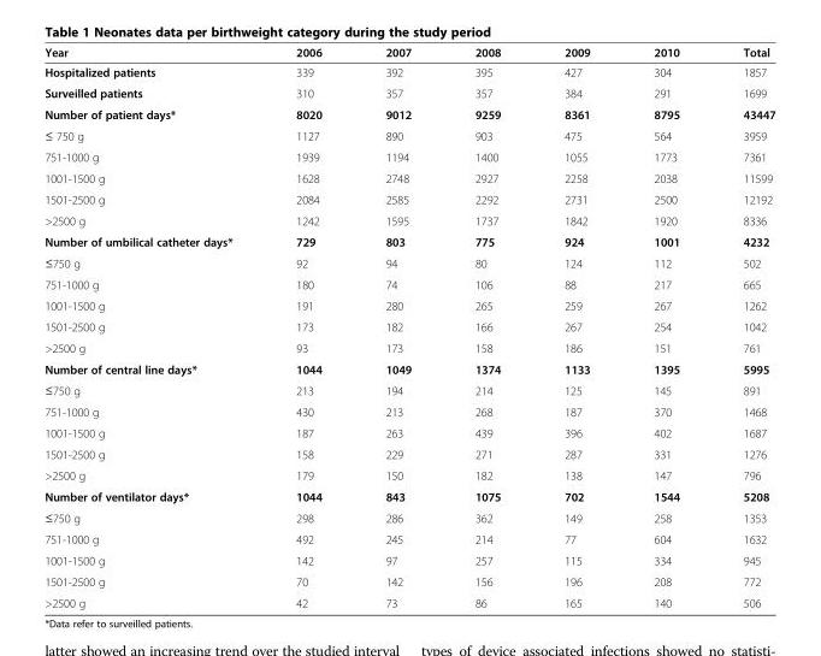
<table><thead><tr><td>Year</td><td>2006</td><td>2007</td><td>2008</td><td>2009</td><td>2010</td><td>Total</td></tr></thead><tbody><tr><td>Hospitalized patients</td><td>339</td><td>392</td><td>395</td><td>427</td><td>304</td><td>1857</td></tr><tr><td>Surveilled patients</td><td>310</td><td>357</td><td>357</td><td>384</td><td>291</td><td>1699</td></tr><tr><td>Number of patient days*</td><td>8020</td><td>9012</td><td>9259</td><td>8361</td><td>8795</td><td>43447</td></tr><tr><td>≤ 750 g</td><td>1127</td><td>890</td><td>903</td><td>475</td><td>564</td><td>3959</td></tr><tr><td>751-1000 g</td><td>1939</td><td>1194</td><td>1400</td><td>1055</td><td>1773</td><td>7361</td></tr><tr><td>1001-1500 g</td><td>1628</td><td>2748</td><td>2927</td><td>2258</td><td>2038</td><td>11599</td></tr><tr><td>1501-2500 g</td><td>2084</td><td>2585</td><td>2292</td><td>2731</td><td>2500</td><td>12192</td></tr><tr><td>&gt;2500 g</td><td>1242</td><td>1595</td><td>1737</td><td>1842</td><td>1920</td><td>8336</td></tr><tr><td>Number of umbilical catheter days*</td><td>729</td><td>803</td><td>775</td><td>924</td><td>1001</td><td>4232</td></tr><tr><td>≤750 g</td><td>92</td><td>94</td><td>80</td><td>124</td><td>112</td><td>502</td></tr><tr><td>751-1000 g</td><td>180</td><td>74</td><td>106</td><td>88</td><td>217</td><td>665</td></tr><tr><td>1001-1500 g</td><td>191</td><td>280</td><td>265</td><td>259</td><td>267</td><td>1262</td></tr><tr><td>1501-2500 g</td><td>173</td><td>182</td><td>166</td><td>267</td><td>254</td><td>1042</td></tr><tr><td>&gt;2500 g</td><td>93</td><td>173</td><td>158</td><td>186</td><td>151</td><td>761</td></tr><tr><td>Number of central line days*</td><td>1044</td><td>1049</td><td>1374</td><td>1133</td><td>1395</td><td>5995</td></tr><tr><td>≤750 g</td><td>213</td><td>194</td><td>214</td><td>125</td><td>145</td><td>891</td></tr><tr><td>751-1000 g</td><td>430</td><td>213</td><td>268</td><td>187</td><td>370</td><td>1468</td></tr><tr><td>1001-1500 g</td><td>187</td><td>263</td><td>439</td><td>396</td><td>402</td><td>1687</td></tr><tr><td>1501-2500 g</td><td>158</td><td>229</td><td>271</td><td>287</td><td>331</td><td>1276</td></tr><tr><td>&gt;2500 g</td><td>179</td><td>150</td><td>182</td><td>138</td><td>147</td><td>796</td></tr><tr><td>Number of ventilator days*</td><td>1044</td><td>843</td><td>1075</td><td>702</td><td>1544</td><td>5208</td></tr><tr><td>≤750 g</td><td>298</td><td>286</td><td>362</td><td>149</td><td>258</td><td>1353</td></tr><tr><td>751-1000 g</td><td>492</td><td>245</td><td>214</td><td>77</td><td>604</td><td>1632</td></tr><tr><td>1001-1500 g</td><td>142</td><td>97</td><td>257</td><td>115</td><td>334</td><td>945</td></tr><tr><td>1501-2500 g</td><td>70</td><td>142</td><td>156</td><td>196</td><td>208</td><td>772</td></tr><tr><td>&gt;2500 g</td><td>42</td><td>73</td><td>86</td><td>165</td><td>140</td><td>506</td></tr></tbody></table>